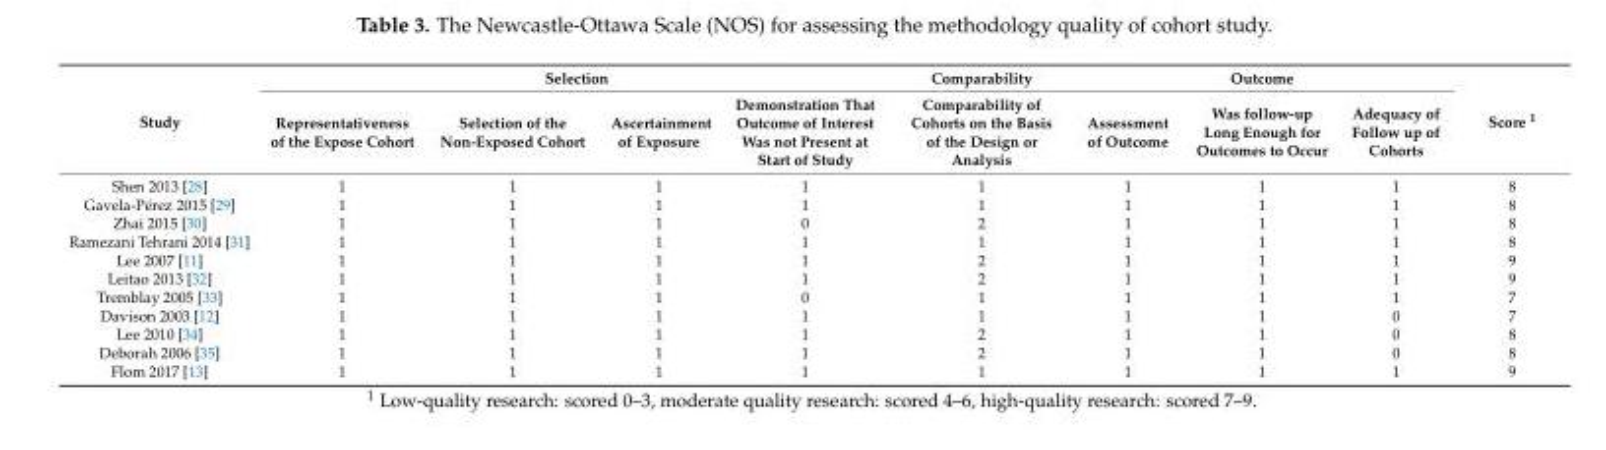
<table><thead><tr><td rowspan="2">Study</td><td colspan="4">Selection</td><td rowspan="2">Comparability Comparability of Cohorts on the Basis of the Design or Analysis</td><td colspan="3">Outcome</td><td rowspan="2">Score <sup>1</sup></td></tr><tr><td>Representativeness of the Expose Cohort</td><td>Selection of the Non-Exposed Cohort</td><td>Ascertainment of Exposure</td><td>Demonstration That Outcome of Interest Was not Present at Start of Study</td><td>Assessment of Outcome</td><td>Was follow-up Long Enough for Outcomes to Occur</td><td>Adequacy of Follow up of Cohorts</td></tr></thead><tbody><tr><td>Shen 2013 [28]</td><td>1</td><td>1</td><td>1</td><td>1</td><td>1</td><td>1</td><td>1</td><td>1</td><td>8</td></tr><tr><td>Gavela-Pérez 2015 [29]</td><td>1</td><td>1</td><td>1</td><td>1</td><td>1</td><td>1</td><td>1</td><td>1</td><td>8</td></tr><tr><td>Zhai 2015 [30]</td><td>1</td><td>1</td><td>1</td><td>0</td><td>2</td><td>1</td><td>1</td><td>1</td><td>8</td></tr><tr><td>Ramezani Tehrani 2014 [31]</td><td>1</td><td>1</td><td>1</td><td>1</td><td>1</td><td>1</td><td>1</td><td>1</td><td>8</td></tr><tr><td>Lee 2007 [11]</td><td>1</td><td>1</td><td>1</td><td>1</td><td>2</td><td>1</td><td>1</td><td>1</td><td>9</td></tr><tr><td>Leitao 2013 [32]</td><td>1</td><td>1</td><td>1</td><td>1</td><td>2</td><td>1</td><td>1</td><td>1</td><td>9</td></tr><tr><td>Tremblay 2005 [33]</td><td>1</td><td>1</td><td>1</td><td>0</td><td>1</td><td>1</td><td>1</td><td>1</td><td>7</td></tr><tr><td>Davison 2003 [12]</td><td>1</td><td>1</td><td>1</td><td>1</td><td>1</td><td>1</td><td>1</td><td>0</td><td>7</td></tr><tr><td>Lee 2010 [34]</td><td>1</td><td>1</td><td>1</td><td>1</td><td>2</td><td>1</td><td>1</td><td>0</td><td>8</td></tr><tr><td>Deborah 2006 [35]</td><td>1</td><td>1</td><td>1</td><td>1</td><td>2</td><td>1</td><td>1</td><td>0</td><td>8</td></tr><tr><td>Flom 2017 [13]</td><td>1</td><td>1</td><td>1</td><td>1</td><td>1</td><td>1</td><td>1</td><td>1</td><td>9</td></tr></tbody></table>